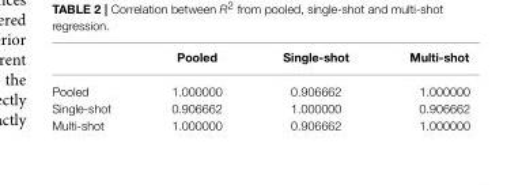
<table><thead><tr><td></td><td>Pooled</td><td>Single-shot</td><td>Multi-shot</td></tr></thead><tbody><tr><td>Pooled</td><td>1.000000</td><td>0.906662</td><td>1.000000</td></tr><tr><td>Single-shot</td><td>0.906662</td><td>1.000000</td><td>0.906662</td></tr><tr><td>Multi-shot</td><td>1.000000</td><td>0.906662</td><td>1.000000</td></tr></tbody></table>